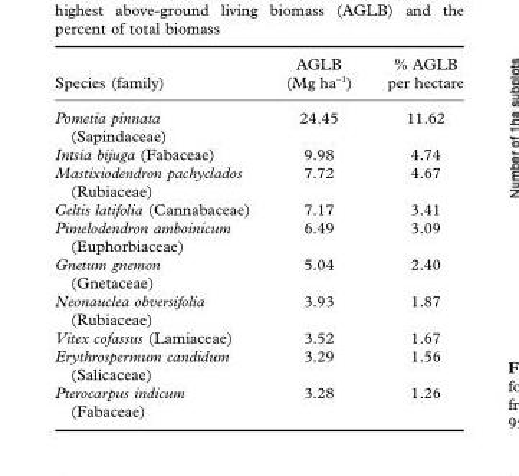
<table><thead><tr><td>Species (family)</td><td>AGLB (Mg ha<sup>−1</sup>)</td><td>% AGLB per hectare</td></tr></thead><tbody><tr><td>Pometia pinnata (Sapindaceae)</td><td>24.45</td><td>11.62</td></tr><tr><td>Intsia bijuga (Fabaceae)</td><td>9.98</td><td>4.74</td></tr><tr><td>Mastixiodendron pachyclados (Rubiaceae)</td><td>7.72</td><td>4.67</td></tr><tr><td>Celtis latifolia (Cannabaceae)</td><td>7.17</td><td>3.41</td></tr><tr><td>Pimelodendron amboinicum (Euphorbiaceae)</td><td>6.49</td><td>3.09</td></tr><tr><td>Gnetum gnemon (Gnetaceae)</td><td>5.04</td><td>2.40</td></tr><tr><td>Neonauclea obversifolia (Rubiaceae)</td><td>3.93</td><td>1.87</td></tr><tr><td>Vitex cofassus (Lamiaceae)</td><td>3.52</td><td>1.67</td></tr><tr><td>Erythrospermum candidum (Salicaceae)</td><td>3.29</td><td>1.56</td></tr><tr><td>Pterocarpus indicum (Fabaceae)</td><td>3.28</td><td>1.26</td></tr></tbody></table>